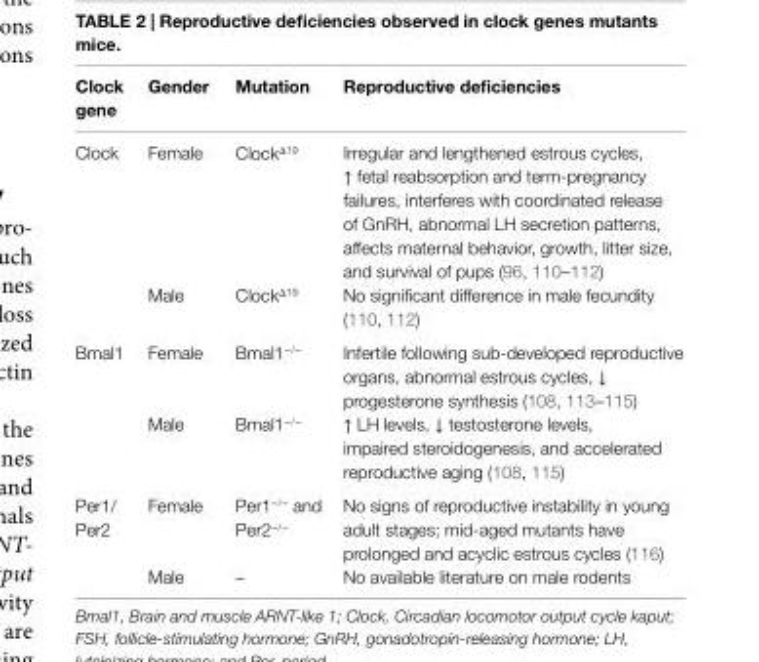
<table><thead><tr><td>Clock gene</td><td>Gender</td><td>Mutation</td><td>Reproductive deficiencies</td></tr></thead><tbody><tr><td rowspan="2">Clock</td><td>Female</td><td>Clock<sup>Δ19</sup></td><td>Irregular and lengthened estrous cycles, ↑ fetal reabsorption and term-pregnancy failures, interferes with coordinated release of GnRH, abnormal LH secretion patterns, affects maternal behavior, growth, litter size, and survival of pups (96, 110–112)</td></tr><tr><td>Male</td><td>Clock<sup>Δ19</sup></td><td>No significant difference in male fecundity (110, 112)</td></tr><tr><td rowspan="2">Bmal1</td><td>Female</td><td>Bmal1<sup>−/−</sup></td><td>Infertile following sub-developed reproductive organs, abnormal estrous cycles, ↓ progesterone synthesis (108, 113–115)</td></tr><tr><td>Male</td><td>Bmal1<sup>−/−</sup></td><td>↑ LH levels, ↓ testosterone levels, impaired steroidogenesis, and accelerated reproductive aging (108, 115)</td></tr><tr><td rowspan="2">Per1/ Per2</td><td>Female</td><td>Per1<sup>−/−</sup> and Per2<sup>−/−</sup></td><td>No signs of reproductive instability in young adult stages; mid-aged mutants have prolonged and acyclic estrous cycles (116)</td></tr><tr><td>Male</td><td>–</td><td>No available literature on male rodents</td></tr></tbody></table>